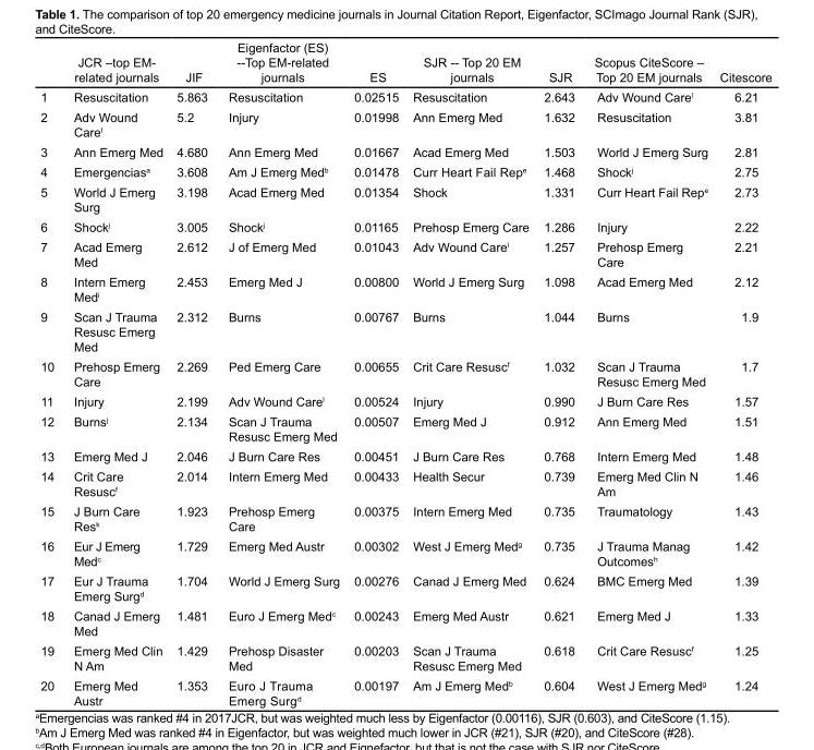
<table><thead><tr><td></td><td>JCR –top EM- related journals</td><td>JIF</td><td>Eigenfactor (ES) --Top EM-related journals</td><td>ES</td><td>SJR -- Top 20 EM journals</td><td>SJR</td><td>Scopus CiteScore – Top 20 EM journals</td><td>Citescore</td></tr></thead><tbody><tr><td>1</td><td>Resuscitation</td><td>5.863</td><td>Resuscitation</td><td>0.02515</td><td>Resuscitation</td><td>2.643</td><td>Adv Wound Care<sup>l</sup></td><td>6.21</td></tr><tr><td>2</td><td>Adv Wound Care<sup>l</sup></td><td>5.2</td><td>Injury</td><td>0.01998</td><td>Ann Emerg Med</td><td>1.632</td><td>Resuscitation</td><td>3.81</td></tr><tr><td>3</td><td>Ann Emerg Med</td><td>4.680</td><td>Ann Emerg Med</td><td>0.01667</td><td>Acad Emerg Med</td><td>1.503</td><td>World J Emerg Surg</td><td>2.81</td></tr><tr><td>4</td><td>Emergencias<sup>a</sup></td><td>3.608</td><td>Am J Emerg Med<sup>b</sup></td><td>0.01478</td><td>Curr Heart Fail Rep<sup>e</sup></td><td>1.468</td><td>Shock<sup>j</sup></td><td>2.75</td></tr><tr><td>5</td><td>World J Emerg Surg</td><td>3.198</td><td>Acad Emerg Med</td><td>0.01354</td><td>Shock</td><td>1.331</td><td>Curr Heart Fail Rep<sup>e</sup></td><td>2.73</td></tr><tr><td>6</td><td>Shock<sup>j</sup></td><td>3.005</td><td>Shock<sup>j</sup></td><td>0.01165</td><td>Prehosp Emerg Care</td><td>1.286</td><td>Injury</td><td>2.22</td></tr><tr><td>7</td><td>Acad Emerg Med</td><td>2.612</td><td>J of Emerg Med</td><td>0.01043</td><td>Adv Wound Care<sup>l</sup></td><td>1.257</td><td>Prehosp Emerg Care</td><td>2.21</td></tr><tr><td>8</td><td>Intern Emerg Med<sup>i</sup></td><td>2.453</td><td>Emerg Med J</td><td>0.00800</td><td>World J Emerg Surg</td><td>1.098</td><td>Acad Emerg Med</td><td>2.12</td></tr><tr><td>9</td><td>Scan J Trauma Resusc Emerg Med</td><td>2.312</td><td>Burns</td><td>0.00767</td><td>Burns</td><td>1.044</td><td>Burns</td><td>1.9</td></tr><tr><td>10</td><td>Prehosp Emerg Care</td><td>2.269</td><td>Ped Emerg Care</td><td>0.00655</td><td>Crit Care Resusc<sup>f</sup></td><td>1.032</td><td>Scan J Trauma Resusc Emerg Med</td><td>1.7</td></tr><tr><td>11</td><td>Injury</td><td>2.199</td><td>Adv Wound Care<sup>l</sup></td><td>0.00524</td><td>Injury</td><td>0.990</td><td>J Burn Care Res</td><td>1.57</td></tr><tr><td>12</td><td>Burns<sup>j</sup></td><td>2.134</td><td>Scan J Trauma Resusc Emerg Med</td><td>0.00507</td><td>Emerg Med J</td><td>0.912</td><td>Ann Emerg Med</td><td>1.51</td></tr><tr><td>13</td><td>Emerg Med J</td><td>2.046</td><td>J Burn Care Res</td><td>0.00451</td><td>J Burn Care Res</td><td>0.768</td><td>Intern Emerg Med</td><td>1.48</td></tr><tr><td>14</td><td>Crit Care Resusc<sup>f</sup></td><td>2.014</td><td>Intern Emerg Med</td><td>0.00433</td><td>Health Secur</td><td>0.739</td><td>Emerg Med Clin N Am</td><td>1.46</td></tr><tr><td>15</td><td>J Burn Care Res<sup>k</sup></td><td>1.923</td><td>Prehosp Emerg Care</td><td>0.00375</td><td>Intern Emerg Med</td><td>0.735</td><td>Traumatology</td><td>1.43</td></tr><tr><td>16</td><td>Eur J Emerg Med<sup>c</sup></td><td>1.729</td><td>Emerg Med Austr</td><td>0.00302</td><td>West J Emerg Med<sup>g</sup></td><td>0.735</td><td>J Trauma Manag Outcomes<sup>h</sup></td><td>1.42</td></tr><tr><td>17</td><td>Eur J Trauma Emerg Surg<sup>d</sup></td><td>1.704</td><td>World J Emerg Surg</td><td>0.00276</td><td>Canad J Emerg Med</td><td>0.624</td><td>BMC Emerg Med</td><td>1.39</td></tr><tr><td>18</td><td>Canad J Emerg Med</td><td>1.481</td><td>Euro J Emerg Med<sup>c</sup></td><td>0.00243</td><td>Emerg Med Austr</td><td>0.621</td><td>Emerg Med J</td><td>1.33</td></tr><tr><td>19</td><td>Emerg Med Clin N Am</td><td>1.429</td><td>Prehosp Disaster Med</td><td>0.00203</td><td>Scan J Trauma Resusc Emerg Med</td><td>0.618</td><td>Crit Care Resusc<sup>f</sup></td><td>1.25</td></tr><tr><td>20</td><td>Emerg Med Austr</td><td>1.353</td><td>Euro J Trauma Emerg Surg<sup>d</sup></td><td>0.00197</td><td>Am J Emerg Med<sup>b</sup></td><td>0.604</td><td>West J Emerg Med<sup>g</sup></td><td>1.24</td></tr></tbody></table>